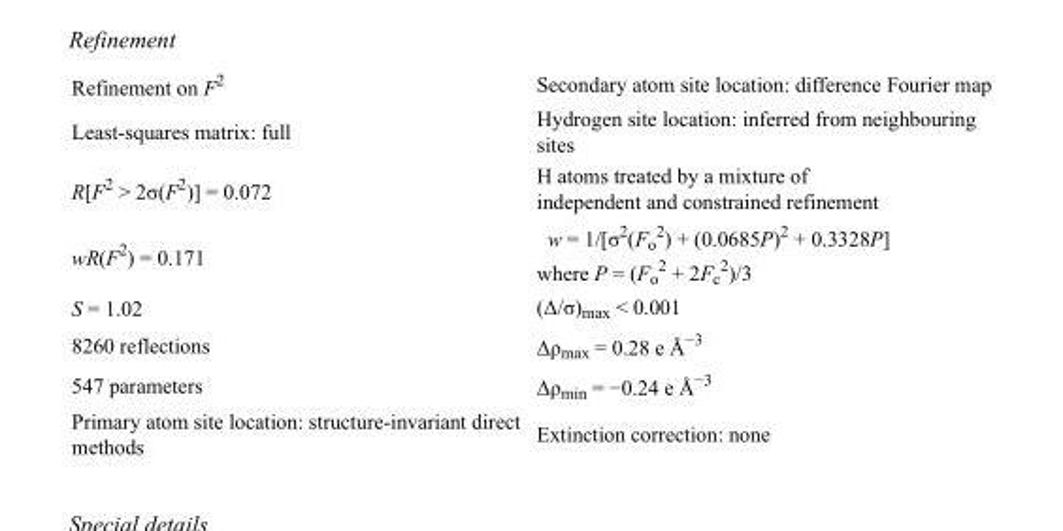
<table><tbody><tr><td>Refinement on F<sup>2</sup></td><td>Secondary atom site location: difference Fourier map</td></tr><tr><td>Least-squares matrix: full</td><td>Hydrogen site location: inferred from neighbouring sites</td></tr><tr><td>R[F<sup>2</sup> &gt; 2σ(F<sup>2</sup>)] = 0.072</td><td>H atoms treated by a mixture of independent and constrained refinement</td></tr><tr><td>wR(F<sup>2</sup>) = 0.171</td><td>w = 1/[σ<sup>2</sup>(F<sub>o</sub> <sup>2</sup>) + (0.0685P)<sup>2</sup> + 0.3328P] where P = (F<sub>o</sub> <sup>2</sup> + 2F<sub>c</sub> <sup>2</sup>)/3</td></tr><tr><td>S = 1.02</td><td>(Δ/σ)<sub>max</sub> &lt; 0.001</td></tr><tr><td>8260 reflections</td><td>Δρ<sub>max</sub> = 0.28 e Å<sup>−3</sup></td></tr><tr><td>547 parameters</td><td>Δρ<sub>min</sub> = −0.24 e Å<sup>−3</sup></td></tr><tr><td>Primary atom site location: structure-invariant direct methods</td><td>Extinction correction: none</td></tr></tbody></table>